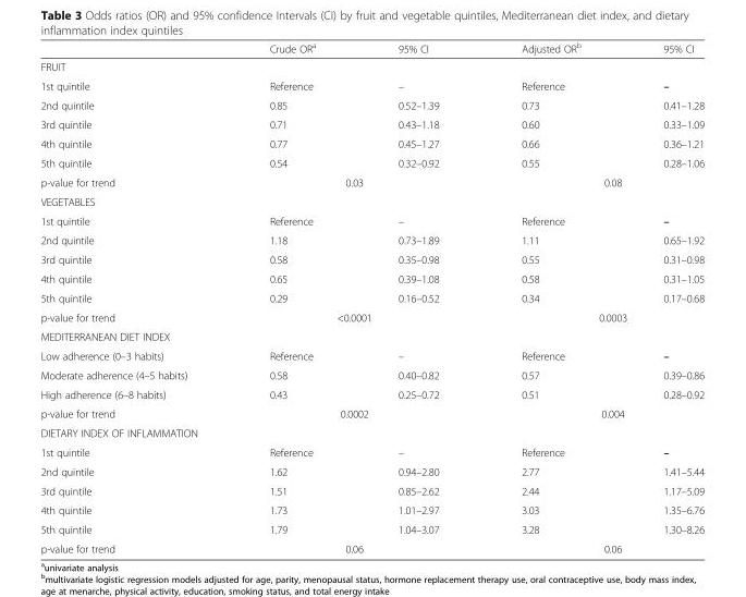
<table><thead><tr><td></td><td>Crude OR<sup>a</sup></td><td>95% CI</td><td>Adjusted OR<sup>b</sup></td><td>95% CI</td></tr></thead><tbody><tr><td colspan="5">FRUIT</td></tr><tr><td>1st quintile</td><td>Reference</td><td>–</td><td>Reference</td><td>–</td></tr><tr><td>2nd quintile</td><td>0.85</td><td>0.52–1.39</td><td>0.73</td><td>0.41–1.28</td></tr><tr><td>3rd quintile</td><td>0.71</td><td>0.43–1.18</td><td>0.60</td><td>0.33–1.09</td></tr><tr><td>4th quintile</td><td>0.77</td><td>0.45–1.27</td><td>0.66</td><td>0.36–1.21</td></tr><tr><td>5th quintile</td><td>0.54</td><td>0.32–0.92</td><td>0.55</td><td>0.28–1.06</td></tr><tr><td>p-value for trend</td><td colspan="2">0.03</td><td colspan="2">0.08</td></tr><tr><td colspan="5">VEGETABLES</td></tr><tr><td>1st quintile</td><td>Reference</td><td>–</td><td>Reference</td><td>–</td></tr><tr><td>2nd quintile</td><td>1.18</td><td>0.73–1.89</td><td>1.11</td><td>0.65–1.92</td></tr><tr><td>3rd quintile</td><td>0.58</td><td>0.35–0.98</td><td>0.55</td><td>0.31–0.98</td></tr><tr><td>4th quintile</td><td>0.65</td><td>0.39–1.08</td><td>0.58</td><td>0.31–1.05</td></tr><tr><td>5th quintile</td><td>0.29</td><td>0.16–0.52</td><td>0.34</td><td>0.17–0.68</td></tr><tr><td>p-value for trend</td><td colspan="2">&lt;0.0001</td><td colspan="2">0.0003</td></tr><tr><td colspan="5">MEDITERRANEAN DIET INDEX</td></tr><tr><td>Low adherence (0–3 habits)</td><td>Reference</td><td>–</td><td>Reference</td><td>–</td></tr><tr><td>Moderate adherence (4–5 habits)</td><td>0.58</td><td>0.40–0.82</td><td>0.57</td><td>0.39–0.86</td></tr><tr><td>High adherence (6–8 habits)</td><td>0.43</td><td>0.25–0.72</td><td>0.51</td><td>0.28–0.92</td></tr><tr><td>p-value for trend</td><td colspan="2">0.0002</td><td colspan="2">0.004</td></tr><tr><td colspan="5">DIETARY INDEX OF INFLAMMATION</td></tr><tr><td>1st quintile</td><td>Reference</td><td>–</td><td>Reference</td><td>–</td></tr><tr><td>2nd quintile</td><td>1.62</td><td>0.94–2.80</td><td>2.77</td><td>1.41–5.44</td></tr><tr><td>3rd quintile</td><td>1.51</td><td>0.85–2.62</td><td>2.44</td><td>1.17–5.09</td></tr><tr><td>4th quintile</td><td>1.73</td><td>1.01–2.97</td><td>3.03</td><td>1.35–6.76</td></tr><tr><td>5th quintile</td><td>1.79</td><td>1.04–3.07</td><td>3.28</td><td>1.30–8.26</td></tr><tr><td>p-value for trend</td><td colspan="2">0.06</td><td colspan="2">0.06</td></tr></tbody></table>